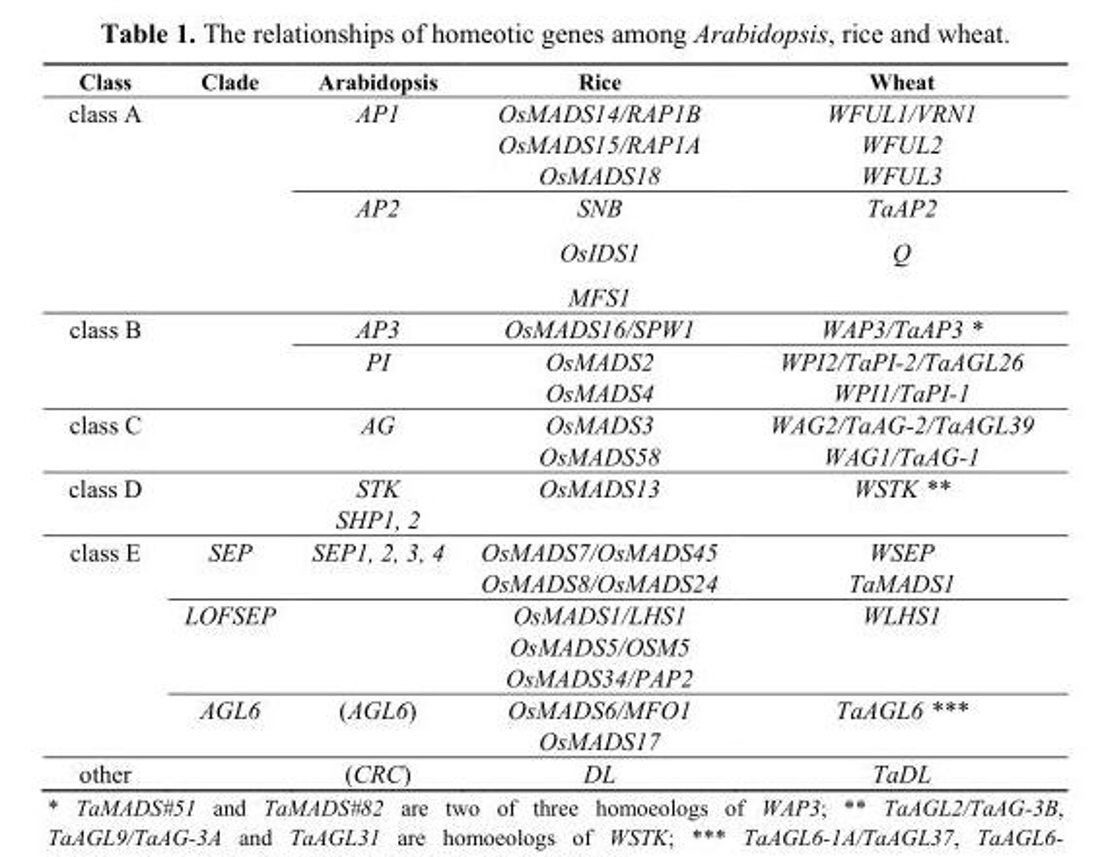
<table><thead><tr><td>Class</td><td>Clade</td><td>Arabidopsis</td><td>Rice</td><td>Wheat</td></tr></thead><tbody><tr><td rowspan="6">class A</td><td></td><td>AP1</td><td>OsMADS14/RAP1B</td><td>WFUL1/VRN1</td></tr><tr><td></td><td></td><td>OsMADS15/RAP1A</td><td>WFUL2</td></tr><tr><td></td><td></td><td>OsMADS18</td><td>WFUL3</td></tr><tr><td></td><td>AP2</td><td>SNB</td><td>TaAP2</td></tr><tr><td></td><td></td><td>OsIDS1</td><td>Q</td></tr><tr><td></td><td></td><td>MFS1</td><td></td></tr><tr><td rowspan="3">class B</td><td></td><td>AP3</td><td>OsMADS16/SPW1</td><td>WAP3/TaAP3 *</td></tr><tr><td></td><td>PI</td><td>OsMADS2</td><td>WPI2/TaPI-2/TaAGL26</td></tr><tr><td></td><td></td><td>OsMADS4</td><td>WPI1/TaPI-1</td></tr><tr><td rowspan="2">class C</td><td></td><td>AG</td><td>OsMADS3</td><td>WAG2/TaAG-2/TaAGL39</td></tr><tr><td></td><td></td><td>OsMADS58</td><td>WAG1/TaAG-1</td></tr><tr><td rowspan="2">class D</td><td></td><td>STK</td><td>OsMADS13</td><td>WSTK **</td></tr><tr><td></td><td>SHP1, 2</td><td></td><td></td></tr><tr><td rowspan="7">class E</td><td>SEP</td><td>SEP1, 2, 3, 4</td><td>OsMADS7/OsMADS45</td><td>WSEP</td></tr><tr><td></td><td></td><td>OsMADS8/OsMADS24</td><td>TaMADS1</td></tr><tr><td>LOFSEP</td><td></td><td>OsMADS1/LHS1</td><td>WLHS1</td></tr><tr><td></td><td></td><td>OsMADS5/OSM5</td><td></td></tr><tr><td></td><td></td><td>OsMADS34/PAP2</td><td></td></tr><tr><td>AGL6</td><td>(AGL6)</td><td>OsMADS6/MFO1</td><td>TaAGL6 ***</td></tr><tr><td></td><td></td><td>OsMADS17</td><td></td></tr><tr><td>other</td><td></td><td>(CRC)</td><td>DL</td><td>TaDL</td></tr></tbody></table>